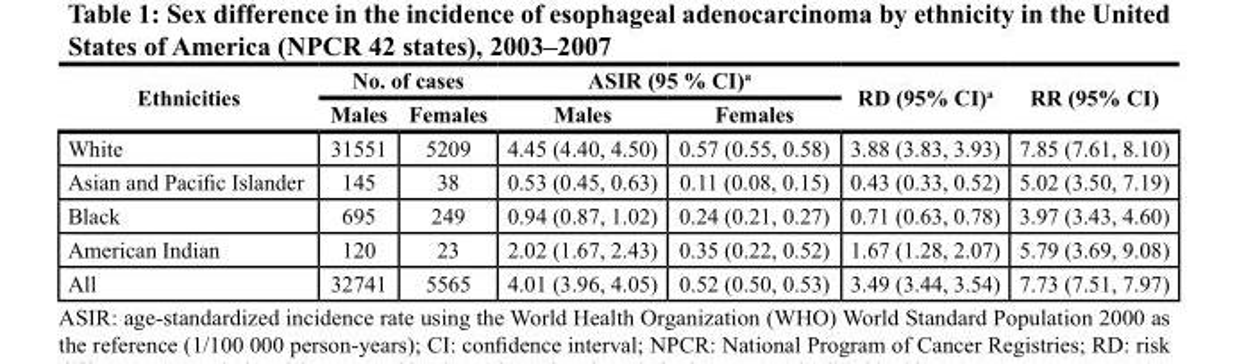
<table><thead><tr><td rowspan="2">Ethnicities</td><td colspan="2">No. of cases</td><td colspan="2">AsIr (95 % cI)<sup>a</sup></td><td rowspan="2">rD (95% cI)<sup>a</sup></td><td rowspan="2">rr (95% cI)</td></tr><tr><td>Males</td><td>Females</td><td>Males</td><td>Females</td></tr></thead><tbody><tr><td>White</td><td>31551</td><td>5209</td><td>4.45 (4.40, 4.50)</td><td>0.57 (0.55, 0.58)</td><td>3.88 (3.83, 3.93)</td><td>7.85 (7.61, 8.10)</td></tr><tr><td>Asian and Pacific Islander</td><td>145</td><td>38</td><td>0.53 (0.45, 0.63)</td><td>0.11 (0.08, 0.15)</td><td>0.43 (0.33, 0.52)</td><td>5.02 (3.50, 7.19)</td></tr><tr><td>Black</td><td>695</td><td>249</td><td>0.94 (0.87, 1.02)</td><td>0.24 (0.21, 0.27)</td><td>0.71 (0.63, 0.78)</td><td>3.97 (3.43, 4.60)</td></tr><tr><td>American Indian</td><td>120</td><td>23</td><td>2.02 (1.67, 2.43)</td><td>0.35 (0.22, 0.52)</td><td>1.67 (1.28, 2.07)</td><td>5.79 (3.69, 9.08)</td></tr><tr><td>All</td><td>32741</td><td>5565</td><td>4.01 (3.96, 4.05)</td><td>0.52 (0.50, 0.53)</td><td>3.49 (3.44, 3.54)</td><td>7.73 (7.51, 7.97)</td></tr></tbody></table>